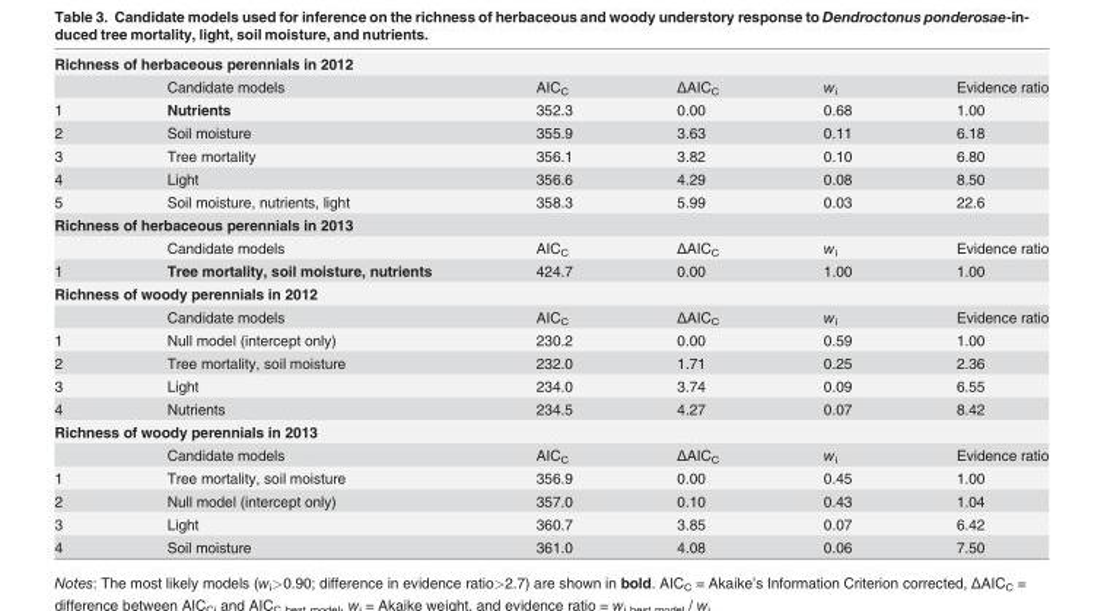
<table><tbody><tr><td colspan="6">Richness of herbaceous perennials in 2012</td></tr><tr><td></td><td>Candidate models</td><td>AIC<sub>C</sub></td><td>ΔAIC<sub>C</sub></td><td>w<sub>i</sub></td><td>Evidence ratio</td></tr><tr><td>1</td><td>Nutrients</td><td>352.3</td><td>0.00</td><td>0.68</td><td>1.00</td></tr><tr><td>2</td><td>Soil moisture</td><td>355.9</td><td>3.63</td><td>0.11</td><td>6.18</td></tr><tr><td>3</td><td>Tree mortality</td><td>356.1</td><td>3.82</td><td>0.10</td><td>6.80</td></tr><tr><td>4</td><td>Light</td><td>356.6</td><td>4.29</td><td>0.08</td><td>8.50</td></tr><tr><td>5</td><td>Soil moisture, nutrients, light</td><td>358.3</td><td>5.99</td><td>0.03</td><td>22.6</td></tr><tr><td colspan="6">Richness of herbaceous perennials in 2013</td></tr><tr><td></td><td>Candidate models</td><td>AIC<sub>C</sub></td><td>ΔAIC<sub>C</sub></td><td>w<sub>i</sub></td><td>Evidence ratio</td></tr><tr><td>1</td><td>Tree mortality, soil moisture, nutrients</td><td>424.7</td><td>0.00</td><td>1.00</td><td>1.00</td></tr><tr><td colspan="6">Richness of woody perennials in 2012</td></tr><tr><td></td><td>Candidate models</td><td>AIC<sub>C</sub></td><td>ΔAIC<sub>C</sub></td><td>w<sub>i</sub></td><td>Evidence ratio</td></tr><tr><td>1</td><td>Null model (intercept only)</td><td>230.2</td><td>0.00</td><td>0.59</td><td>1.00</td></tr><tr><td>2</td><td>Tree mortality, soil moisture</td><td>232.0</td><td>1.71</td><td>0.25</td><td>2.36</td></tr><tr><td>3</td><td>Light</td><td>234.0</td><td>3.74</td><td>0.09</td><td>6.55</td></tr><tr><td>4</td><td>Nutrients</td><td>234.5</td><td>4.27</td><td>0.07</td><td>8.42</td></tr><tr><td colspan="6">Richness of woody perennials in 2013</td></tr><tr><td></td><td>Candidate models</td><td>AIC<sub>C</sub></td><td>ΔAIC<sub>C</sub></td><td>w<sub>i</sub></td><td>Evidence ratio</td></tr><tr><td>1</td><td>Tree mortality, soil moisture</td><td>356.9</td><td>0.00</td><td>0.45</td><td>1.00</td></tr><tr><td>2</td><td>Null model (intercept only)</td><td>357.0</td><td>0.10</td><td>0.43</td><td>1.04</td></tr><tr><td>3</td><td>Light</td><td>360.7</td><td>3.85</td><td>0.07</td><td>6.42</td></tr><tr><td>4</td><td>Soil moisture</td><td>361.0</td><td>4.08</td><td>0.06</td><td>7.50</td></tr></tbody></table>